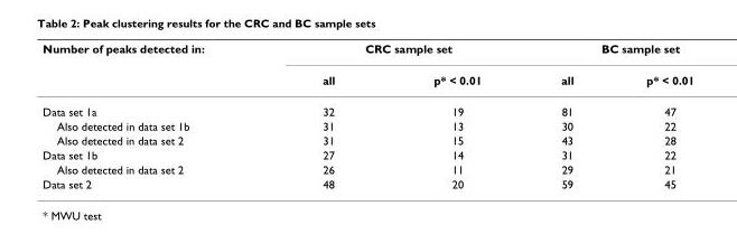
<table><thead><tr><td rowspan="2">Number of peaks detected in:</td><td colspan="2">CRC sample set</td><td colspan="2">BC sample set</td></tr><tr><td>all</td><td>p* &lt; 0.01</td><td>all</td><td>p* &lt; 0.01</td></tr></thead><tbody><tr><td>Data set 1a</td><td>32</td><td>19</td><td>81</td><td>47</td></tr><tr><td>Also detected in data set 1b</td><td>31</td><td>13</td><td>30</td><td>22</td></tr><tr><td>Also detected in data set 2</td><td>31</td><td>15</td><td>43</td><td>28</td></tr><tr><td>Data set 1b</td><td>27</td><td>14</td><td>31</td><td>22</td></tr><tr><td>Also detected in data set 2</td><td>26</td><td>11</td><td>29</td><td>21</td></tr><tr><td>Data set 2</td><td>48</td><td>20</td><td>59</td><td>45</td></tr></tbody></table>